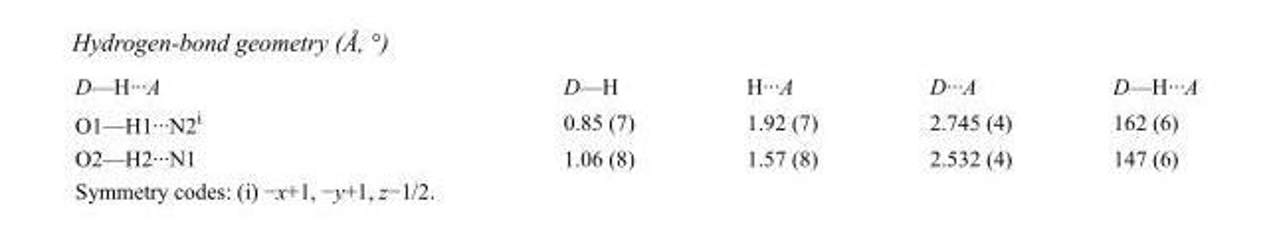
<table><tbody><tr><td>D—H···A</td><td>D—H</td><td>H···A</td><td>D···A</td><td>D—H···A</td></tr><tr><td>O1—H1···N2<sup>i</sup></td><td>0.85 (7)</td><td>1.92 (7)</td><td>2.745 (4)</td><td>162 (6)</td></tr><tr><td>O2—H2···N1</td><td>1.06 (8)</td><td>1.57 (8)</td><td>2.532 (4)</td><td>147 (6)</td></tr></tbody></table>